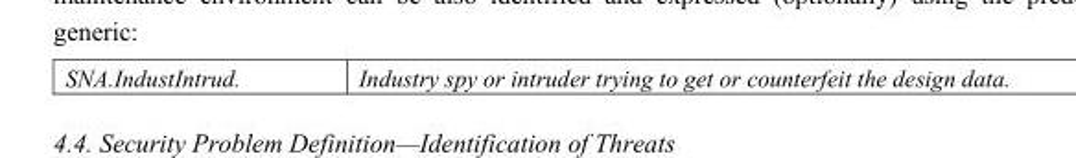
<table><tbody><tr><td>SNA.IndustIntrud.</td><td>Industry spy or intruder trying to get or counterfeit the design data.</td></tr></tbody></table>